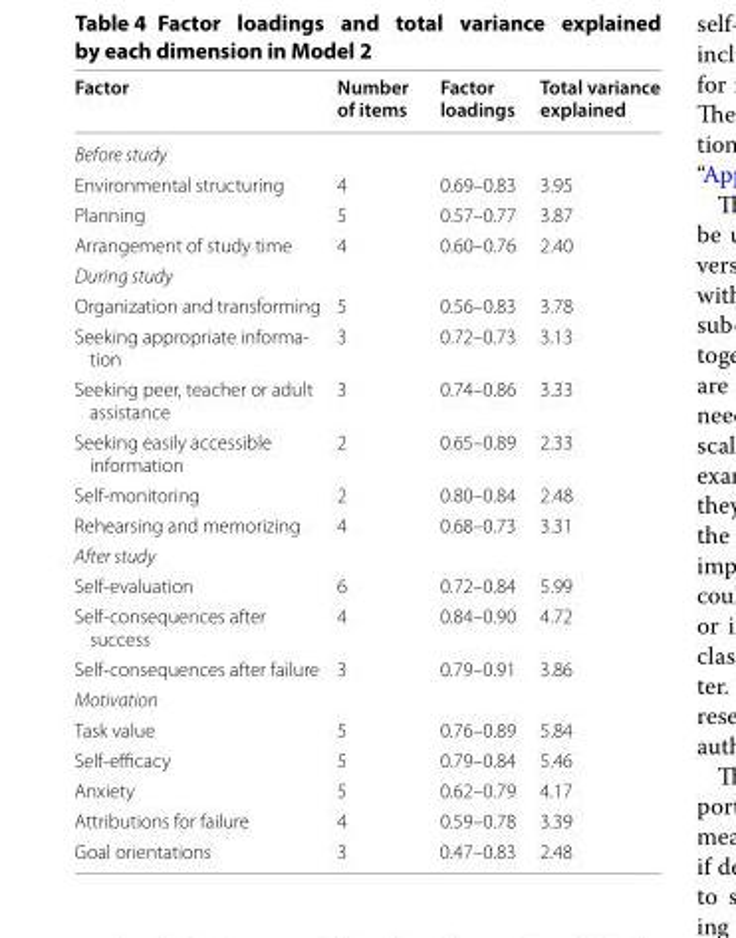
<table><thead><tr><td>Factor</td><td>Number of items</td><td>Factor loadings</td><td>Total variance explained</td></tr></thead><tbody><tr><td colspan="4">Before study</td></tr><tr><td>Environmental structuring</td><td>4</td><td>0.69–0.83</td><td>3.95</td></tr><tr><td>Planning</td><td>5</td><td>0.57–0.77</td><td>3.87</td></tr><tr><td>Arrangement of study time</td><td>4</td><td>0.60–0.76</td><td>2.40</td></tr><tr><td colspan="4">During study</td></tr><tr><td>Organization and transforming</td><td>5</td><td>0.56–0.83</td><td>3.78</td></tr><tr><td>Seeking appropriate informa- tion</td><td>3</td><td>0.72–0.73</td><td>3.13</td></tr><tr><td>Seeking peer, teacher or adult assistance</td><td>3</td><td>0.74–0.86</td><td>3.33</td></tr><tr><td>Seeking easily accessible information</td><td>2</td><td>0.65–0.89</td><td>2.33</td></tr><tr><td>Self-monitoring</td><td>2</td><td>0.80–0.84</td><td>2.48</td></tr><tr><td>Rehearsing and memorizing</td><td>4</td><td>0.68–0.73</td><td>3.31</td></tr><tr><td colspan="4">After study</td></tr><tr><td>Self-evaluation</td><td>6</td><td>0.72–0.84</td><td>5.99</td></tr><tr><td>Self-consequences after success</td><td>4</td><td>0.84–0.90</td><td>4.72</td></tr><tr><td>Self-consequences after failure</td><td>3</td><td>0.79–0.91</td><td>3.86</td></tr><tr><td colspan="4">Motivation</td></tr><tr><td>Task value</td><td>5</td><td>0.76–0.89</td><td>5.84</td></tr><tr><td>Self-efficacy</td><td>5</td><td>0.79–0.84</td><td>5.46</td></tr><tr><td>Anxiety</td><td>5</td><td>0.62–0.79</td><td>4.17</td></tr><tr><td>Attributions for failure</td><td>4</td><td>0.59–0.78</td><td>3.39</td></tr><tr><td>Goal orientations</td><td>3</td><td>0.47–0.83</td><td>2.48</td></tr></tbody></table>